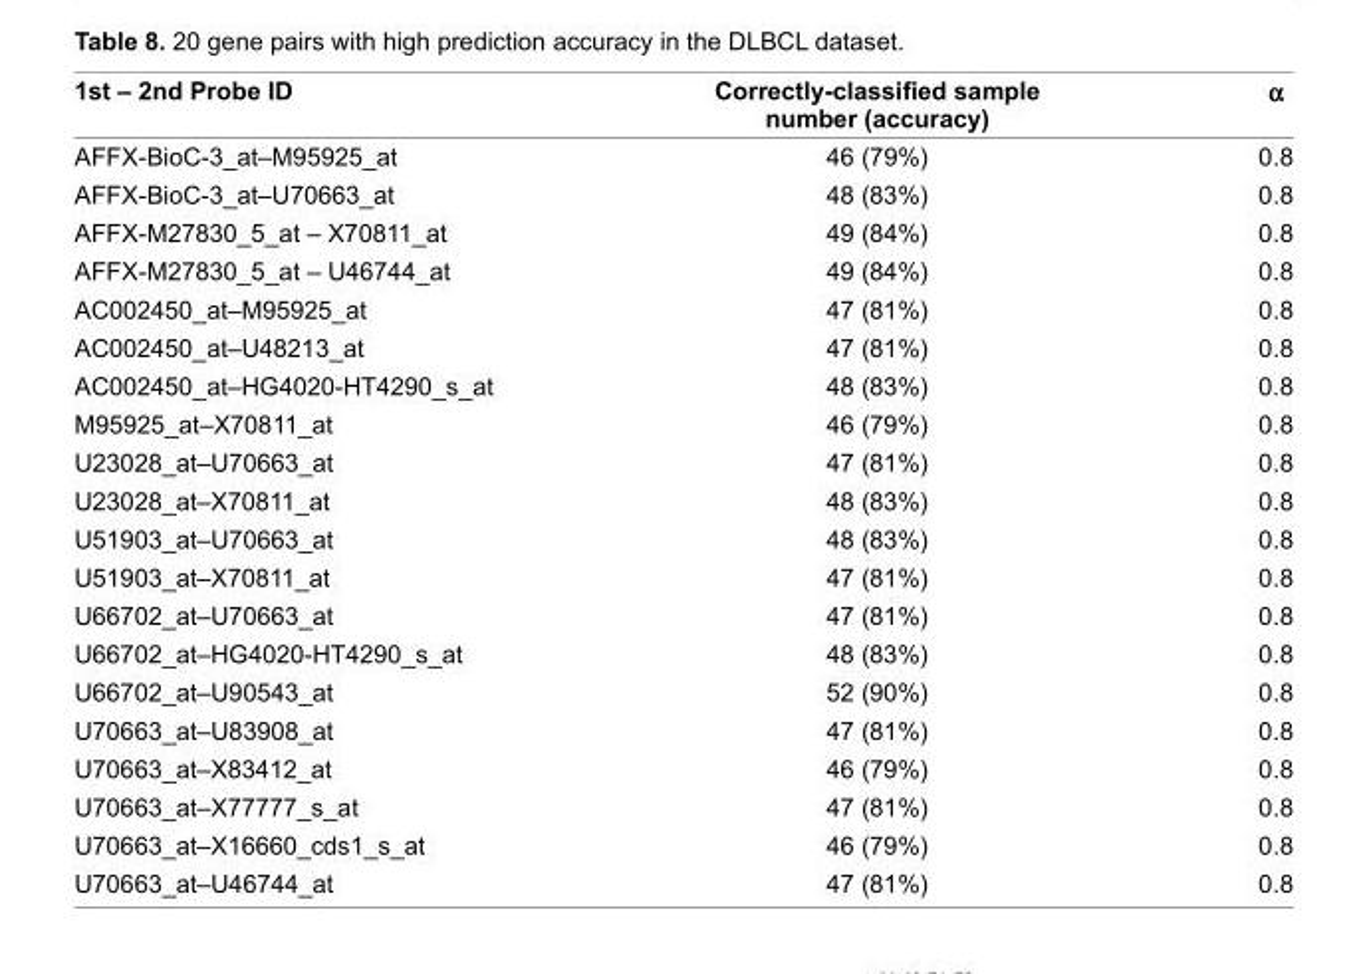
<table><thead><tr><td>1st – 2nd Probe ID</td><td>Correctly-classifi ed sample number (accuracy)</td><td>α</td></tr></thead><tbody><tr><td>AFFX-BioC-3_at–M95925_at</td><td>46 (79%)</td><td>0.8</td></tr><tr><td>AFFX-BioC-3_at–U70663_at</td><td>48 (83%)</td><td>0.8</td></tr><tr><td>AFFX-M27830_5_at – X70811_at</td><td>49 (84%)</td><td>0.8</td></tr><tr><td>AFFX-M27830_5_at – U46744_at</td><td>49 (84%)</td><td>0.8</td></tr><tr><td>AC002450_at–M95925_at</td><td>47 (81%)</td><td>0.8</td></tr><tr><td>AC002450_at–U48213_at</td><td>47 (81%)</td><td>0.8</td></tr><tr><td>AC002450_at–HG4020-HT4290_s_at</td><td>48 (83%)</td><td>0.8</td></tr><tr><td>M95925_at–X70811_at</td><td>46 (79%)</td><td>0.8</td></tr><tr><td>U23028_at–U70663_at</td><td>47 (81%)</td><td>0.8</td></tr><tr><td>U23028_at–X70811_at</td><td>48 (83%)</td><td>0.8</td></tr><tr><td>U51903_at–U70663_at</td><td>48 (83%)</td><td>0.8</td></tr><tr><td>U51903_at–X70811_at</td><td>47 (81%)</td><td>0.8</td></tr><tr><td>U66702_at–U70663_at</td><td>47 (81%)</td><td>0.8</td></tr><tr><td>U66702_at–HG4020-HT4290_s_at</td><td>48 (83%)</td><td>0.8</td></tr><tr><td>U66702_at–U90543_at</td><td>52 (90%)</td><td>0.8</td></tr><tr><td>U70663_at–U83908_at</td><td>47 (81%)</td><td>0.8</td></tr><tr><td>U70663_at–X83412_at</td><td>46 (79%)</td><td>0.8</td></tr><tr><td>U70663_at–X77777_s_at</td><td>47 (81%)</td><td>0.8</td></tr><tr><td>U70663_at–X16660_cds1_s_at</td><td>46 (79%)</td><td>0.8</td></tr><tr><td>U70663_at–U46744_at</td><td>47 (81%)</td><td>0.8</td></tr></tbody></table>